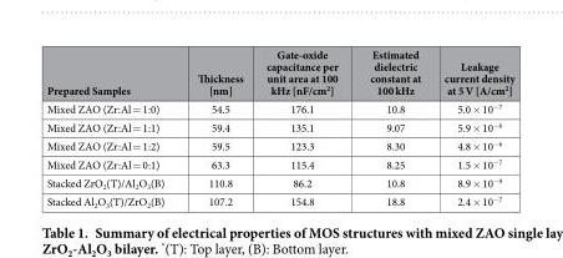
<table><thead><tr><td>Prepared Samples</td><td>Thickness [nm]</td><td>Gate-oxide capacitance per unit area at 100 kHz [nF/cm<sup>2</sup>]</td><td>Estimated dielectric constant at 100 kHz</td><td>Leakage current density at 5 V [A/cm<sup>2</sup>]</td></tr></thead><tbody><tr><td>Mixed ZAO (Zr:Al = 1:0)</td><td>54.5</td><td>176.1</td><td>10.8</td><td>5.0 × 10<sup>−7</sup></td></tr><tr><td>Mixed ZAO (Zr:Al = 1:1)</td><td>59.4</td><td>135.1</td><td>9.07</td><td>5.9 × 10<sup>−6</sup></td></tr><tr><td>Mixed ZAO (Zr:Al = 1:2)</td><td>59.5</td><td>123.3</td><td>8.30</td><td>4.8 × 10<sup>−6</sup></td></tr><tr><td>Mixed ZAO (Zr:Al = 0:1)</td><td>63.3</td><td>115.4</td><td>8.25</td><td>1.5 × 10<sup>−7</sup></td></tr><tr><td>Stacked ZrO<sub>2</sub>(T)/Al<sub>2</sub>O<sub>3</sub>(B)</td><td>110.8</td><td>86.2</td><td>10.8</td><td>8.9 × 10<sup>−9</sup></td></tr><tr><td>Stacked Al<sub>2</sub>O<sub>3</sub>(T)/ZrO<sub>2</sub>(B)</td><td>107.2</td><td>154.8</td><td>18.8</td><td>2.4 × 10<sup>−7</sup></td></tr></tbody></table>